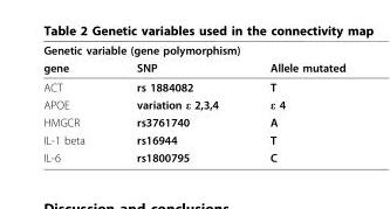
<table><thead><tr><td colspan="3">Genetic variable (gene polymorphism)</td></tr><tr><td>gene</td><td>SNP</td><td>Allele mutated</td></tr></thead><tbody><tr><td>ACT</td><td>rs 1884082</td><td>T</td></tr><tr><td>APOE</td><td>variation ε 2,3,4</td><td>ε 4</td></tr><tr><td>HMGCR</td><td>rs3761740</td><td>A</td></tr><tr><td>IL-1 beta</td><td>rs16944</td><td>T</td></tr><tr><td>IL-6</td><td>rs1800795</td><td>C</td></tr></tbody></table>